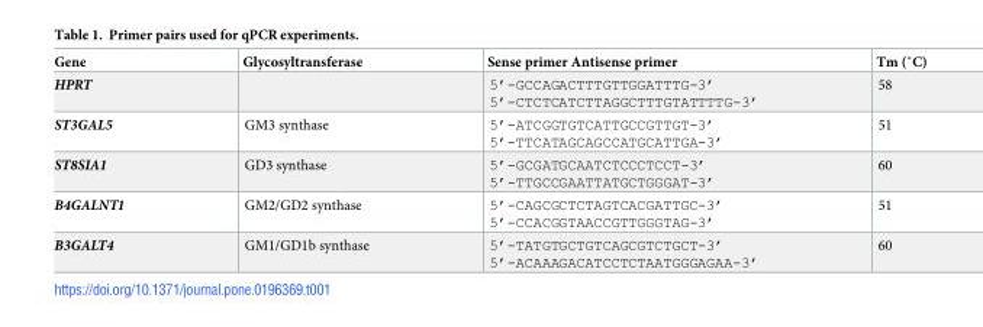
<table><thead><tr><td>Gene</td><td>Glycosyltransferase</td><td>Sense primer Antisense primer</td><td>Tm (˚C)</td></tr></thead><tbody><tr><td>HPRT</td><td></td><td>5’-GCCAGACTTTGTTGGATTTG-3’ 5’-CTCTCATCTTAGGCTTTGTATTTTG-3’</td><td>58</td></tr><tr><td>ST3GAL5</td><td>GM3 synthase</td><td>5’-ATCGGTGTCATTGCCGTTGT-3’ 5’-TTCATAGCAGCCATGCATTGA-3’</td><td>51</td></tr><tr><td>ST8SIA1</td><td>GD3 synthase</td><td>5’-GCGATGCAATCTCCCTCCT-3’ 5’-TTGCCGAATTATGCTGGGAT-3’</td><td>60</td></tr><tr><td>B4GALNT1</td><td>GM2/GD2 synthase</td><td>5’-CAGCGCTCTAGTCACGATTGC-3’ 5’-CCACGGTAACCGTTGGGTAG-3’</td><td>51</td></tr><tr><td>B3GALT4</td><td>GM1/GD1b synthase</td><td>5’-TATGTGCTGTCAGCGTCTGCT-3’ 5’-ACAAAGACATCCTCTAATGGGAGAA-3’</td><td>60</td></tr></tbody></table>